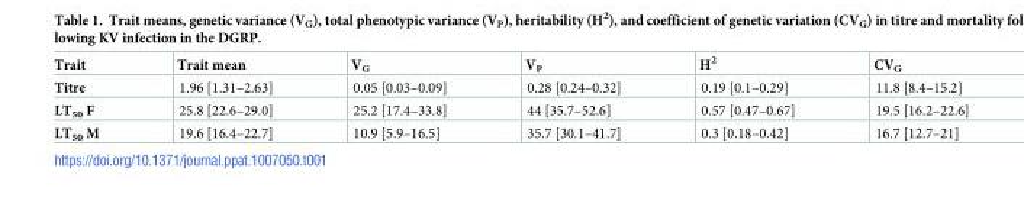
<table><thead><tr><td>Trait</td><td>Trait mean</td><td>V<sub>G</sub></td><td>V<sub>P</sub></td><td>H<sup>2</sup></td><td>CV<sub>G</sub></td></tr></thead><tbody><tr><td>Titre</td><td>1.96 [1.31–2.63]</td><td>0.05 [0.03–0.09]</td><td>0.28 [0.24–0.32]</td><td>0.19 [0.1–0.29]</td><td>11.8 [8.4–15.2]</td></tr><tr><td>LT<sub>50</sub> F</td><td>25.8 [22.6–29.0]</td><td>25.2 [17.4–33.8]</td><td>44 [35.7–52.6]</td><td>0.57 [0.47–0.67]</td><td>19.5 [16.2–22.6]</td></tr><tr><td>LT<sub>50</sub> M</td><td>19.6 [16.4–22.7]</td><td>10.9 [5.9–16.5]</td><td>35.7 [30.1–41.7]</td><td>0.3 [0.18–0.42]</td><td>16.7 [12.7–21]</td></tr></tbody></table>